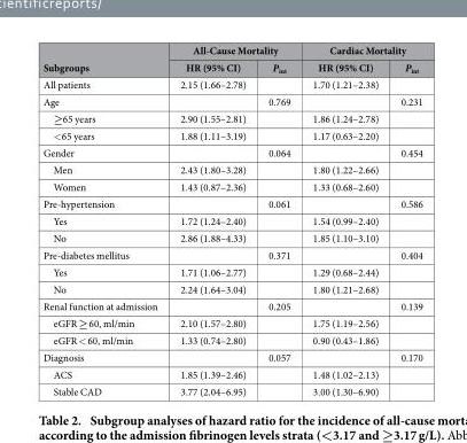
<table><thead><tr><td rowspan="2">Subgroups</td><td colspan="2">All-Cause Mortality</td><td colspan="2">Cardiac Mortality</td></tr><tr><td>HR (95% CI)</td><td>P<sub>int</sub></td><td>HR (95% CI)</td><td>P<sub>int</sub></td></tr></thead><tbody><tr><td>All patients</td><td>2.15 (1.66–2.78)</td><td></td><td>1.70 (1.21–2.38)</td><td></td></tr><tr><td>Age</td><td></td><td>0.769</td><td></td><td>0.231</td></tr><tr><td>≥65 years</td><td>2.90 (1.55–2.81)</td><td></td><td>1.86 (1.24–2.78)</td><td></td></tr><tr><td>&lt; 65 years</td><td>1.88 (1.11–3.19)</td><td></td><td>1.17 (0.63–2.20)</td><td></td></tr><tr><td>Gender</td><td></td><td>0.064</td><td></td><td>0.454</td></tr><tr><td>Men</td><td>2.43 (1.80–3.28)</td><td></td><td>1.80 (1.22–2.66)</td><td></td></tr><tr><td>Women</td><td>1.43 (0.87–2.36)</td><td></td><td>1.33 (0.68–2.60)</td><td></td></tr><tr><td>Pre-hypertension</td><td></td><td>0.061</td><td></td><td>0.586</td></tr><tr><td>Yes</td><td>1.72 (1.24–2.40)</td><td></td><td>1.54 (0.99–2.40)</td><td></td></tr><tr><td>No</td><td>2.86 (1.88–4.33)</td><td></td><td>1.85 (1.10–3.10)</td><td></td></tr><tr><td>Pre-diabetes mellitus</td><td></td><td>0.371</td><td></td><td>0.404</td></tr><tr><td>Yes</td><td>1.71 (1.06–2.77)</td><td></td><td>1.29 (0.68–2.44)</td><td></td></tr><tr><td>No</td><td>2.24 (1.64–3.04)</td><td></td><td>1.80 (1.21–2.68)</td><td></td></tr><tr><td>Renal function at admission</td><td></td><td>0.205</td><td></td><td>0.139</td></tr><tr><td>eGFR ≥ 60, ml/min</td><td>2.10 (1.57–2.80)</td><td></td><td>1.75 (1.19–2.56)</td><td></td></tr><tr><td>eGFR &lt; 60, ml/min</td><td>1.33 (0.74–2.80)</td><td></td><td>0.90 (0.43–1.86)</td><td></td></tr><tr><td>Diagnosis</td><td></td><td>0.057</td><td></td><td>0.170</td></tr><tr><td>ACS</td><td>1.85 (1.39–2.46)</td><td></td><td>1.48 (1.02–2.13)</td><td></td></tr><tr><td>Stable CAD</td><td>3.77 (2.04–6.95)</td><td></td><td>3.00 (1.30–6.90)</td><td></td></tr></tbody></table>